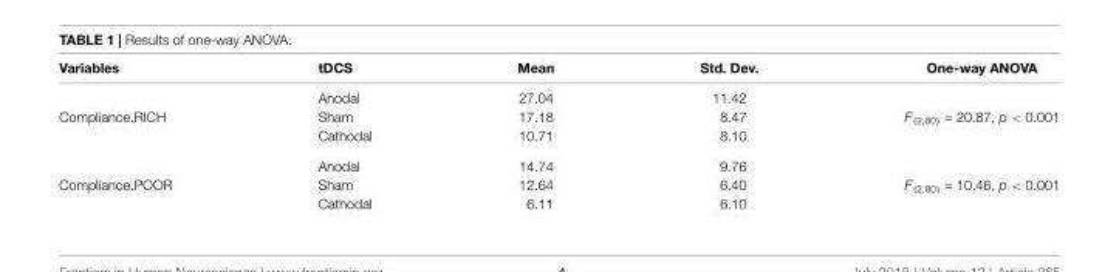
<table><thead><tr><td>Variables</td><td>tDCS</td><td>Mean</td><td>Std. Dev.</td><td>One-way ANOVA</td></tr></thead><tbody><tr><td></td><td>Anodal</td><td>27.04</td><td>11.42</td><td></td></tr><tr><td rowspan="3">Compliance.RICH</td><td>Sham</td><td>17.18</td><td>8.47</td><td>F<sub>(2,80)</sub> = 20.87, p &lt; 0.001</td></tr><tr><td>Cathodal</td><td>10.71</td><td>8.10</td><td></td></tr><tr><td>Anodal</td><td>14.74</td><td>9.76</td><td></td></tr><tr><td rowspan="2">Compliance.POOR</td><td>Sham</td><td>12.64</td><td>6.40</td><td>F<sub>(2,80)</sub> = 10.46, p &lt; 0.001</td></tr><tr><td>Cathodal</td><td>6.11</td><td>6.10</td><td></td></tr></tbody></table>